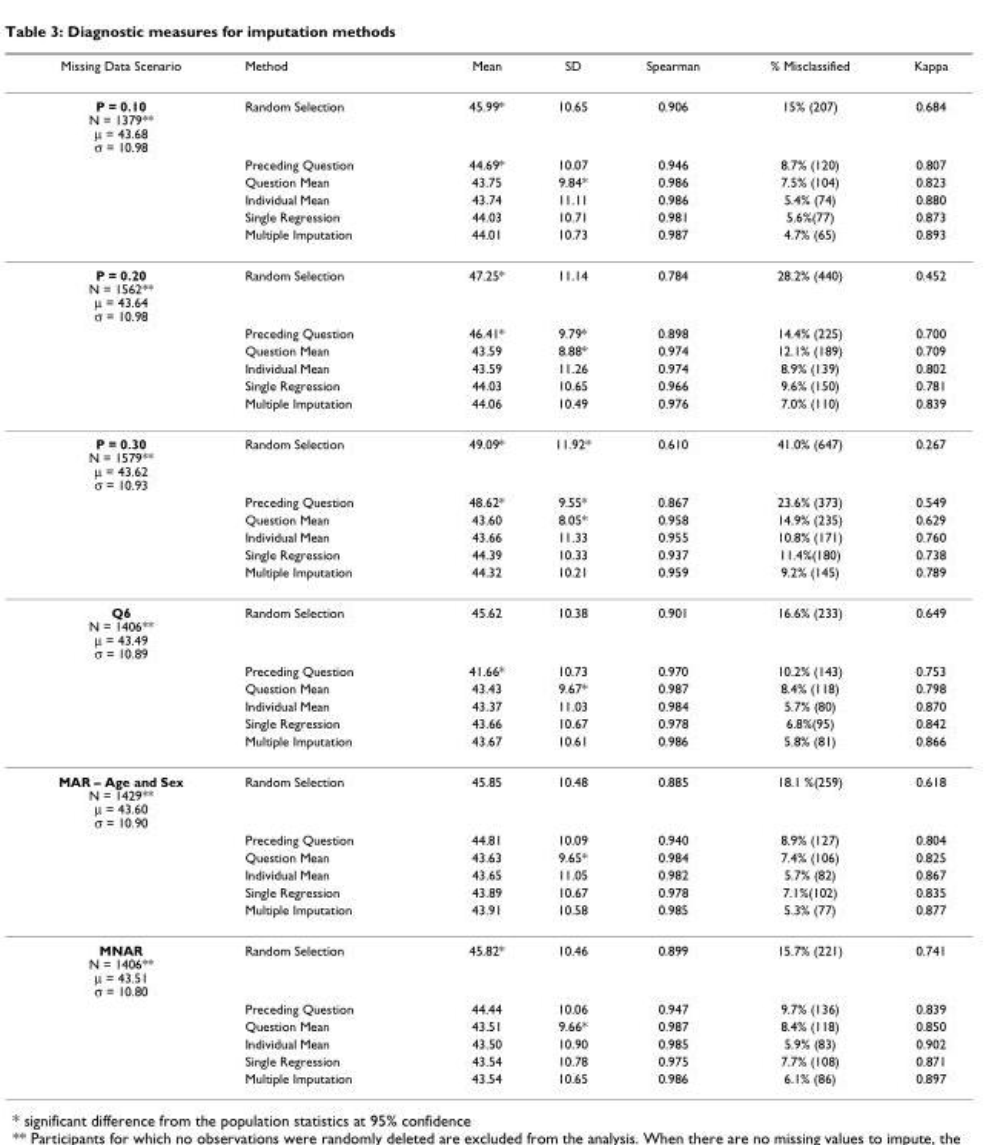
<table><thead><tr><td>Missing Data Scenario</td><td>Method</td><td>Mean</td><td>SD</td><td>Spearman</td><td>% Misclassified</td><td>Kappa</td></tr></thead><tbody><tr><td rowspan="6">P = 0.10 N = 1379** μ = 43.68 σ = 10.98</td><td>Random Selection</td><td>45.99*</td><td>10.65</td><td>0.906</td><td>15% (207)</td><td>0.684</td></tr><tr><td>Preceding Question</td><td>44.69*</td><td>10.07</td><td>0.946</td><td>8.7% (120)</td><td>0.807</td></tr><tr><td>Question Mean</td><td>43.75</td><td>9.84*</td><td>0.986</td><td>7.5% (104)</td><td>0.823</td></tr><tr><td>Individual Mean</td><td>43.74</td><td>11.11</td><td>0.986</td><td>5.4% (74)</td><td>0.880</td></tr><tr><td>Single Regression</td><td>44.03</td><td>10.71</td><td>0.981</td><td>5.6%(77)</td><td>0.873</td></tr><tr><td>Multiple Imputation</td><td>44.01</td><td>10.73</td><td>0.987</td><td>4.7% (65)</td><td>0.893</td></tr><tr><td rowspan="6">P = 0.20 N = 1562** μ = 43.64 σ = 10.98</td><td>Random Selection</td><td>47.25*</td><td>11.14</td><td>0.784</td><td>28.2% (440)</td><td>0.452</td></tr><tr><td>Preceding Question</td><td>46.41*</td><td>9.79*</td><td>0.898</td><td>14.4% (225)</td><td>0.700</td></tr><tr><td>Question Mean</td><td>43.59</td><td>8.88*</td><td>0.974</td><td>12.1% (189)</td><td>0.709</td></tr><tr><td>Individual Mean</td><td>43.59</td><td>11.26</td><td>0.974</td><td>8.9% (139)</td><td>0.802</td></tr><tr><td>Single Regression</td><td>44.03</td><td>10.65</td><td>0.966</td><td>9.6% (150)</td><td>0.781</td></tr><tr><td>Multiple Imputation</td><td>44.06</td><td>10.49</td><td>0.976</td><td>7.0% (110)</td><td>0.839</td></tr><tr><td rowspan="6">P = 0.30 N = 1579** μ = 43.62 σ = 10.93</td><td>Random Selection</td><td>49.09*</td><td>11.92*</td><td>0.610</td><td>41.0% (647)</td><td>0.267</td></tr><tr><td>Preceding Question</td><td>48.62*</td><td>9.55*</td><td>0.867</td><td>23.6% (373)</td><td>0.549</td></tr><tr><td>Question Mean</td><td>43.60</td><td>8.05*</td><td>0.958</td><td>14.9% (235)</td><td>0.629</td></tr><tr><td>Individual Mean</td><td>43.66</td><td>11.33</td><td>0.955</td><td>10.8% (171)</td><td>0.760</td></tr><tr><td>Single Regression</td><td>44.39</td><td>10.33</td><td>0.937</td><td>11.4%(180)</td><td>0.738</td></tr><tr><td>Multiple Imputation</td><td>44.32</td><td>10.21</td><td>0.959</td><td>9.2% (145)</td><td>0.789</td></tr><tr><td rowspan="6">Q6 N = 1406** μ = 43.49 σ = 10.89</td><td>Random Selection</td><td>45.62</td><td>10.38</td><td>0.901</td><td>16.6% (233)</td><td>0.649</td></tr><tr><td>Preceding Question</td><td>41.66*</td><td>10.73</td><td>0.970</td><td>10.2% (143)</td><td>0.753</td></tr><tr><td>Question Mean</td><td>43.43</td><td>9.67*</td><td>0.987</td><td>8.4% (118)</td><td>0.798</td></tr><tr><td>Individual Mean</td><td>43.37</td><td>11.03</td><td>0.984</td><td>5.7% (80)</td><td>0.870</td></tr><tr><td>Single Regression</td><td>43.66</td><td>10.67</td><td>0.978</td><td>6.8%(95)</td><td>0.842</td></tr><tr><td>Multiple Imputation</td><td>43.67</td><td>10.61</td><td>0.986</td><td>5.8% (81)</td><td>0.866</td></tr><tr><td rowspan="6">MAR – Age and Sex N = 1429** μ = 43.60 σ = 10.90</td><td>Random Selection</td><td>45.85</td><td>10.48</td><td>0.885</td><td>18.1 %(259)</td><td>0.618</td></tr><tr><td>Preceding Question</td><td>44.81</td><td>10.09</td><td>0.940</td><td>8.9% (127)</td><td>0.804</td></tr><tr><td>Question Mean</td><td>43.63</td><td>9.65*</td><td>0.984</td><td>7.4% (106)</td><td>0.825</td></tr><tr><td>Individual Mean</td><td>43.65</td><td>11.05</td><td>0.982</td><td>5.7% (82)</td><td>0.867</td></tr><tr><td>Single Regression</td><td>43.89</td><td>10.67</td><td>0.978</td><td>7.1%(102)</td><td>0.835</td></tr><tr><td>Multiple Imputation</td><td>43.91</td><td>10.58</td><td>0.985</td><td>5.3% (77)</td><td>0.877</td></tr><tr><td rowspan="6">MNAR N = 1406** μ = 43.51 σ = 10.80</td><td>Random Selection</td><td>45.82*</td><td>10.46</td><td>0.899</td><td>15.7% (221)</td><td>0.741</td></tr><tr><td>Preceding Question</td><td>44.44</td><td>10.06</td><td>0.947</td><td>9.7% (136)</td><td>0.839</td></tr><tr><td>Question Mean</td><td>43.51</td><td>9.66*</td><td>0.987</td><td>8.4% (118)</td><td>0.850</td></tr><tr><td>Individual Mean</td><td>43.50</td><td>10.90</td><td>0.985</td><td>5.9% (83)</td><td>0.902</td></tr><tr><td>Single Regression</td><td>43.54</td><td>10.78</td><td>0.975</td><td>7.7% (108)</td><td>0.871</td></tr><tr><td>Multiple Imputation</td><td>43.54</td><td>10.65</td><td>0.986</td><td>6.1% (86)</td><td>0.897</td></tr></tbody></table>